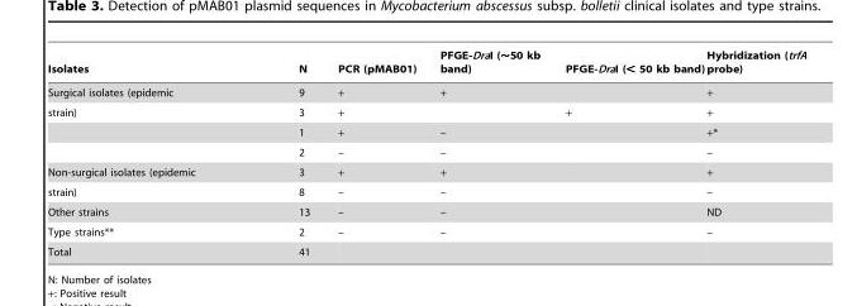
<table><thead><tr><td>Isolates</td><td>N</td><td>PCR (pMAB01)</td><td>PFGE-DraI (∼50 kb band)</td><td>PFGE-DraI (&lt; 50 kb band)</td><td>Hybridization (trfA probe)</td></tr></thead><tbody><tr><td>Surgical isolates (epidemic</td><td>9</td><td>+</td><td>+</td><td></td><td>+</td></tr><tr><td rowspan="3">strain)</td><td>3</td><td>+</td><td></td><td>+</td><td>+</td></tr><tr><td>1</td><td>+</td><td>–</td><td></td><td>+*</td></tr><tr><td>2</td><td>–</td><td>–</td><td></td><td>–</td></tr><tr><td>Non-surgical isolates (epidemic</td><td>3</td><td>+</td><td>+</td><td></td><td>+</td></tr><tr><td>strain)</td><td>8</td><td>–</td><td>–</td><td></td><td>–</td></tr><tr><td>Other strains</td><td>13</td><td>–</td><td>–</td><td></td><td>ND</td></tr><tr><td>Type strains**</td><td>2</td><td>–</td><td>–</td><td></td><td>–</td></tr><tr><td>Total</td><td>41</td><td></td><td></td><td></td><td></td></tr></tbody></table>